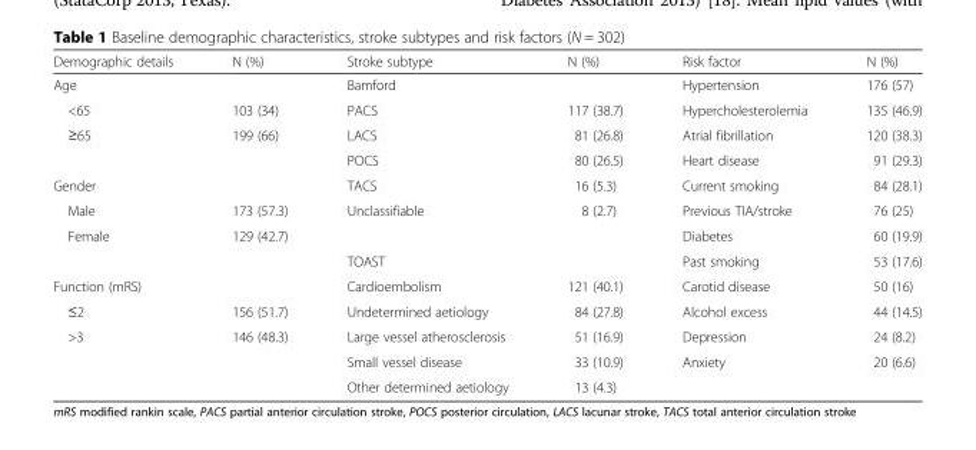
<table><thead><tr><td>Demographic details</td><td>N (%)</td><td>Stroke subtype</td><td>N (%)</td><td>Risk factor</td><td>N (%)</td></tr></thead><tbody><tr><td>Age</td><td></td><td>Bamford</td><td></td><td>Hypertension</td><td>176 (57)</td></tr><tr><td>&lt;65</td><td>103 (34)</td><td>PACS</td><td>117 (38.7)</td><td>Hypercholesterolemia</td><td>135 (46.9)</td></tr><tr><td>≥65</td><td>199 (66)</td><td>LACS</td><td>81 (26.8)</td><td>Atrial fibrillation</td><td>120 (38.3)</td></tr><tr><td colspan="2"></td><td>POCS</td><td>80 (26.5)</td><td>Heart disease</td><td>91 (29.3)</td></tr><tr><td>Gender</td><td></td><td>TACS</td><td>16 (5.3)</td><td>Current smoking</td><td>84 (28.1)</td></tr><tr><td>Male</td><td>173 (57.3)</td><td>Unclassifiable</td><td>8 (2.7)</td><td>Previous TIA/stroke</td><td>76 (25)</td></tr><tr><td>Female</td><td>129 (42.7)</td><td colspan="2"></td><td>Diabetes</td><td>60 (19.9)</td></tr><tr><td colspan="2"></td><td>TOAST</td><td></td><td>Past smoking</td><td>53 (17.6)</td></tr><tr><td>Function (mRS)</td><td></td><td>Cardioembolism</td><td>121 (40.1)</td><td>Carotid disease</td><td>50 (16)</td></tr><tr><td>≤2</td><td>156 (51.7)</td><td>Undetermined aetiology</td><td>84 (27.8)</td><td>Alcohol excess</td><td>44 (14.5)</td></tr><tr><td rowspan="3">&gt;3</td><td rowspan="3">146 (48.3)</td><td>Large vessel atherosclerosis</td><td>51 (16.9)</td><td>Depression</td><td>24 (8.2)</td></tr><tr><td>Small vessel disease</td><td>33 (10.9)</td><td>Anxiety</td><td>20 (6.6)</td></tr><tr><td>Other determined aetiology</td><td>13 (4.3)</td><td colspan="2"></td></tr></tbody></table>